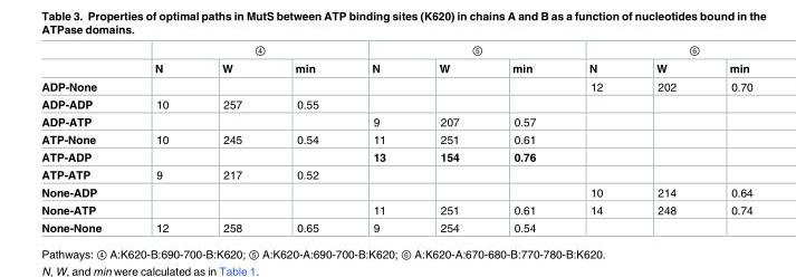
<table><thead><tr><td rowspan="2"></td><td colspan="3">④</td><td colspan="3">⑤</td><td colspan="3">⑥</td></tr><tr><td>N</td><td>W</td><td>min</td><td>N</td><td>W</td><td>min</td><td>N</td><td>W</td><td>min</td></tr></thead><tbody><tr><td>ADP-None</td><td></td><td></td><td></td><td></td><td></td><td></td><td>12</td><td>202</td><td>0.70</td></tr><tr><td>ADP-ADP</td><td>10</td><td>257</td><td>0.55</td><td></td><td></td><td></td><td></td><td></td><td></td></tr><tr><td>ADP-ATP</td><td></td><td></td><td></td><td>9</td><td>207</td><td>0.57</td><td></td><td></td><td></td></tr><tr><td>ATP-None</td><td>10</td><td>245</td><td>0.54</td><td>11</td><td>251</td><td>0.61</td><td></td><td></td><td></td></tr><tr><td>ATP-ADP</td><td></td><td></td><td></td><td>13</td><td>154</td><td>0.76</td><td></td><td></td><td></td></tr><tr><td>ATP-ATP</td><td>9</td><td>217</td><td>0.52</td><td></td><td></td><td></td><td></td><td></td><td></td></tr><tr><td>None-ADP</td><td></td><td></td><td></td><td></td><td></td><td></td><td>10</td><td>214</td><td>0.64</td></tr><tr><td>None-ATP</td><td></td><td></td><td></td><td>11</td><td>251</td><td>0.61</td><td>14</td><td>248</td><td>0.74</td></tr><tr><td>None-None</td><td>12</td><td>258</td><td>0.65</td><td>9</td><td>254</td><td>0.54</td><td></td><td></td><td></td></tr></tbody></table>